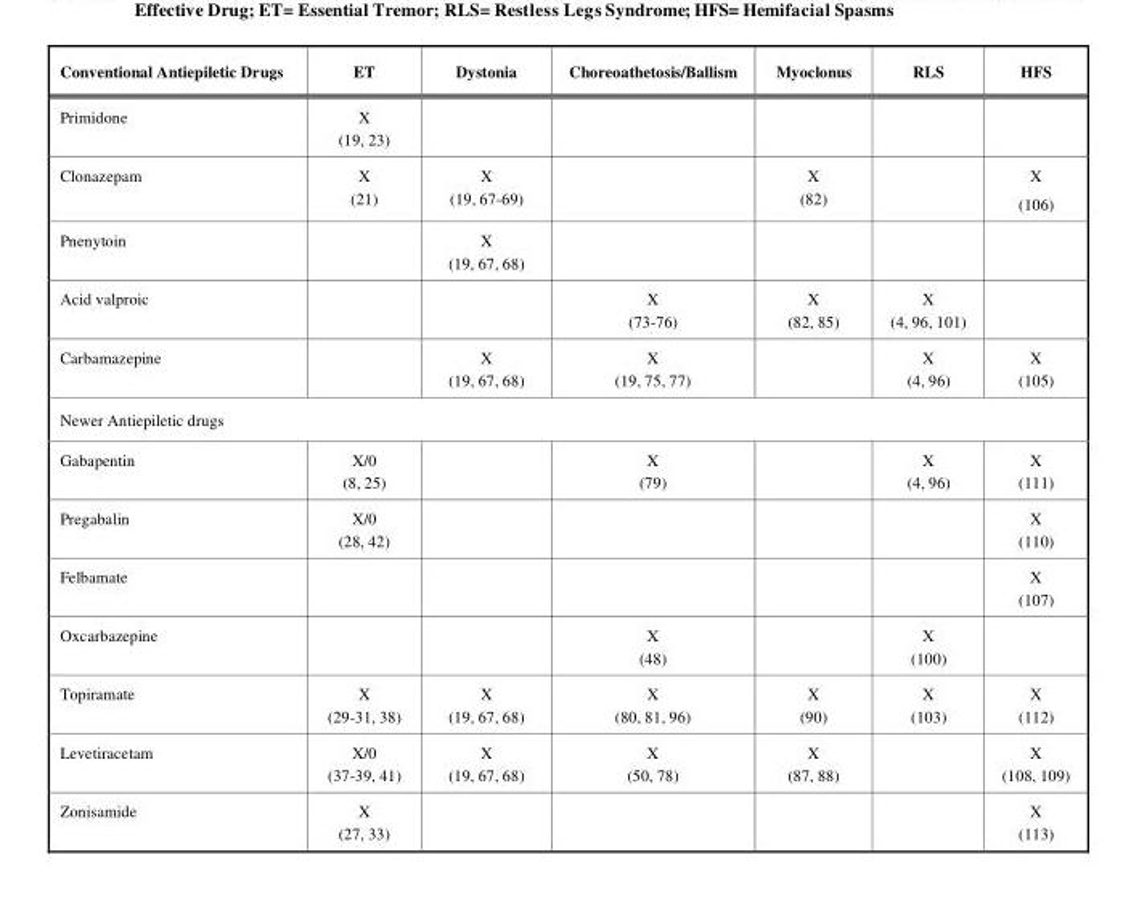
<table><thead><tr><td>Conventional Antiepiletic Drugs</td><td>ET</td><td>Dystonia</td><td>Choreoathetosis/Ballism</td><td>Myoclonus</td><td>RLS</td><td>HFS</td></tr></thead><tbody><tr><td>Primidone</td><td>X (19, 23)</td><td></td><td></td><td></td><td></td><td></td></tr><tr><td>Clonazepam</td><td>X (21)</td><td>X (19, 67-69)</td><td></td><td>X (82)</td><td></td><td>X (106)</td></tr><tr><td>Pnenytoin</td><td></td><td>X (19, 67, 68)</td><td></td><td></td><td></td><td></td></tr><tr><td>Acid valproic</td><td></td><td></td><td>X (73-76)</td><td>X (82, 85)</td><td>X (4, 96, 101)</td><td></td></tr><tr><td>Carbamazepine</td><td></td><td>X (19, 67, 68)</td><td>X (19, 75, 77)</td><td></td><td>X (4, 96)</td><td>X (105)</td></tr><tr><td colspan="7">Newer Antiepiletic drugs</td></tr><tr><td>Gabapentin</td><td>X/0 (8, 25)</td><td></td><td>X (79)</td><td></td><td>X (4, 96)</td><td>X (111)</td></tr><tr><td>Pregabalin</td><td>X/0 (28, 42)</td><td></td><td></td><td></td><td></td><td>X (110)</td></tr><tr><td>Felbamate</td><td></td><td></td><td></td><td></td><td></td><td>X (107)</td></tr><tr><td>Oxcarbazepine</td><td></td><td></td><td>X (48)</td><td></td><td>X (100)</td><td></td></tr><tr><td>Topiramate</td><td>X (29-31, 38)</td><td>X (19, 67, 68)</td><td>X (80, 81, 96)</td><td>X (90)</td><td>X (103)</td><td>X (112)</td></tr><tr><td>Levetiracetam</td><td>X/0 (37-39, 41)</td><td>X (19, 67, 68)</td><td>X (50, 78)</td><td>X (87, 88)</td><td></td><td>X (108, 109)</td></tr><tr><td>Zonisamide</td><td>X (27, 33)</td><td></td><td></td><td></td><td></td><td>X (113)</td></tr></tbody></table>